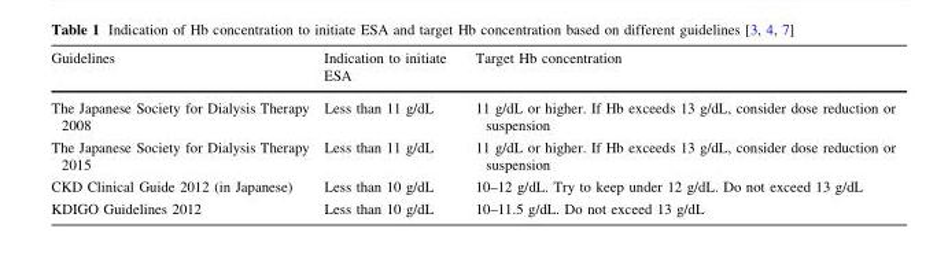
<table><thead><tr><td>Guidelines</td><td>Indication to initiate ESA</td><td>Target Hb concentration</td></tr></thead><tbody><tr><td>The Japanese Society for Dialysis Therapy 2008</td><td>Less than 11 g/dL</td><td>11 g/dL or higher. If Hb exceeds 13 g/dL, consider dose reduction or suspension</td></tr><tr><td>The Japanese Society for Dialysis Therapy 2015</td><td>Less than 11 g/dL</td><td>11 g/dL or higher. If Hb exceeds 13 g/dL, consider dose reduction or suspension</td></tr><tr><td>CKD Clinical Guide 2012 (in Japanese)</td><td>Less than 10 g/dL</td><td>10–12 g/dL. Try to keep under 12 g/dL. Do not exceed 13 g/dL</td></tr><tr><td>KDIGO Guidelines 2012</td><td>Less than 10 g/dL</td><td>10–11.5 g/dL. Do not exceed 13 g/dL</td></tr></tbody></table>